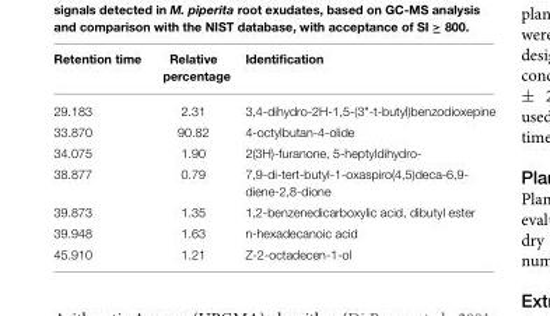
<table><thead><tr><td>Retention time</td><td>Relative percentage</td><td>Identification</td></tr></thead><tbody><tr><td>29.183</td><td>2.31</td><td>3,4-dihydro-2H-1,5-(3&quot;-t-butyl)benzodioxepine</td></tr><tr><td>33.870</td><td>90.82</td><td>4-octylbutan-4-olide</td></tr><tr><td>34.075</td><td>1.90</td><td>2(3H)-furanone, 5-heptyldihydro-</td></tr><tr><td>38.877</td><td>0.79</td><td>7,9-di-tert-butyl-1-oxaspiro(4,5)deca-6,9- diene-2,8-dione</td></tr><tr><td>39.873</td><td>1.35</td><td>1,2-benzenedicarboxylic acid, dibutyl ester</td></tr><tr><td>39.948</td><td>1.63</td><td>n-hexadecanoic acid</td></tr><tr><td>45.910</td><td>1.21</td><td>Z-2-octadecen-1-ol</td></tr></tbody></table>